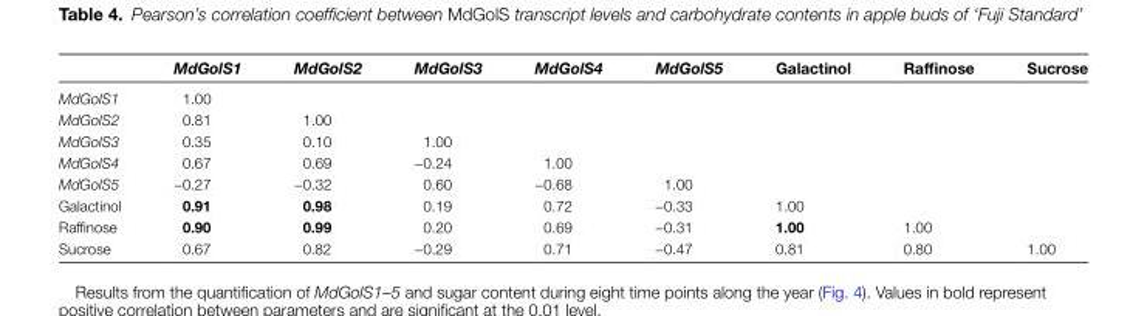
<table><thead><tr><td></td><td>MdGolS1</td><td>MdGolS2</td><td>MdGolS3</td><td>MdGolS4</td><td>MdGolS5</td><td>Galactinol</td><td>Raffinose</td><td>Sucrose</td></tr></thead><tbody><tr><td colspan="9">MdGolS1 1.00</td></tr><tr><td>MdGolS2</td><td>0.81</td><td>1.00</td><td></td><td></td><td></td><td></td><td></td><td></td></tr><tr><td>MdGolS3</td><td>0.35</td><td>0.10</td><td>1.00</td><td></td><td></td><td></td><td></td><td></td></tr><tr><td>MdGolS4</td><td>0.67</td><td>0.69</td><td>−0.24</td><td>1.00</td><td></td><td></td><td></td><td></td></tr><tr><td>MdGolS5</td><td>−0.27</td><td>−0.32</td><td>0.60</td><td>−0.68</td><td>1.00</td><td></td><td></td><td></td></tr><tr><td>Galactinol</td><td>0.91</td><td>0.98</td><td>0.19</td><td>0.72</td><td>−0.33</td><td>1.00</td><td></td><td></td></tr><tr><td>Raffinose</td><td>0.90</td><td>0.99</td><td>0.20</td><td>0.69</td><td>−0.31</td><td>1.00</td><td>1.00</td><td></td></tr><tr><td>Sucrose</td><td>0.67</td><td>0.82</td><td>−0.29</td><td>0.71</td><td>−0.47</td><td>0.81</td><td>0.80</td><td>1.00</td></tr></tbody></table>